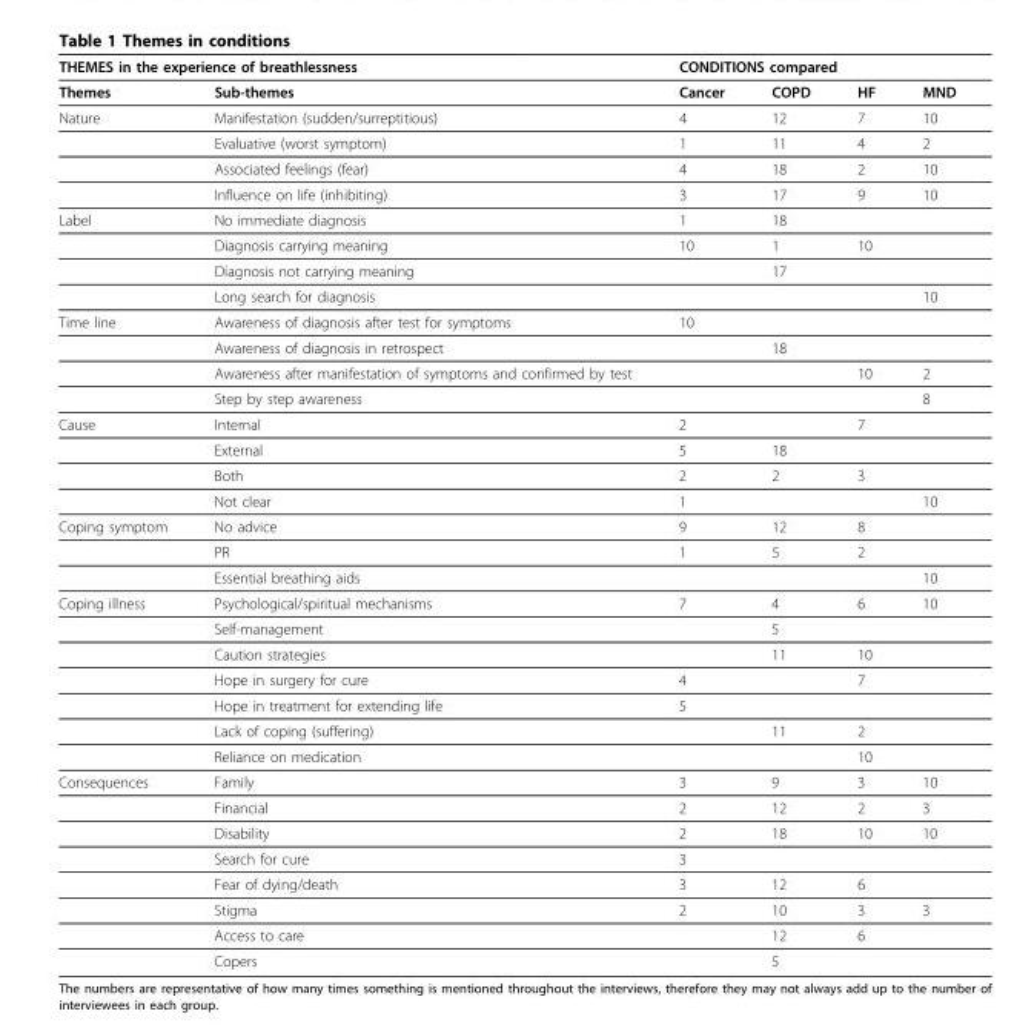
<table><thead><tr><td colspan="2">THEMES in the experience of breathlessness</td><td colspan="4">CONDITIONS compared</td></tr><tr><td>Themes</td><td>Sub-themes</td><td>Cancer</td><td>COPD</td><td>HF</td><td>MND</td></tr></thead><tbody><tr><td rowspan="4">Nature</td><td>Manifestation (sudden/surreptitious)</td><td>4</td><td>12</td><td>7</td><td>10</td></tr><tr><td>Evaluative (worst symptom)</td><td>1</td><td>11</td><td>4</td><td>2</td></tr><tr><td>Associated feelings (fear)</td><td>4</td><td>18</td><td>2</td><td>10</td></tr><tr><td>Influence on life (inhibiting)</td><td>3</td><td>17</td><td>9</td><td>10</td></tr><tr><td rowspan="4">Label</td><td>No immediate diagnosis</td><td>1</td><td>18</td><td></td><td></td></tr><tr><td>Diagnosis carrying meaning</td><td>10</td><td>1</td><td>10</td><td></td></tr><tr><td>Diagnosis not carrying meaning</td><td></td><td>17</td><td></td><td></td></tr><tr><td>Long search for diagnosis</td><td></td><td></td><td></td><td>10</td></tr><tr><td rowspan="4">Time line</td><td>Awareness of diagnosis after test for symptoms</td><td>10</td><td></td><td></td><td></td></tr><tr><td>Awareness of diagnosis in retrospect</td><td></td><td>18</td><td></td><td></td></tr><tr><td>Awareness after manifestation of symptoms and confirmed by test</td><td></td><td></td><td>10</td><td>2</td></tr><tr><td>Step by step awareness</td><td></td><td></td><td></td><td>8</td></tr><tr><td rowspan="4">Cause</td><td>Internal</td><td>2</td><td></td><td>7</td><td></td></tr><tr><td>External</td><td>5</td><td>18</td><td></td><td></td></tr><tr><td>Both</td><td>2</td><td>2</td><td>3</td><td></td></tr><tr><td>Not clear</td><td>1</td><td></td><td></td><td>10</td></tr><tr><td rowspan="3">Coping symptom</td><td>No advice</td><td>9</td><td>12</td><td>8</td><td></td></tr><tr><td>PR</td><td>1</td><td>5</td><td>2</td><td></td></tr><tr><td>Essential breathing aids</td><td></td><td></td><td></td><td>10</td></tr><tr><td rowspan="7">Coping illness</td><td>Psychological/spiritual mechanisms</td><td>7</td><td>4</td><td>6</td><td>10</td></tr><tr><td>Self-management</td><td></td><td>5</td><td></td><td></td></tr><tr><td>Caution strategies</td><td></td><td>11</td><td>10</td><td></td></tr><tr><td>Hope in surgery for cure</td><td>4</td><td></td><td>7</td><td></td></tr><tr><td>Hope in treatment for extending life</td><td>5</td><td></td><td></td><td></td></tr><tr><td>Lack of coping (suffering)</td><td></td><td>11</td><td>2</td><td></td></tr><tr><td>Reliance on medication</td><td></td><td></td><td>10</td><td></td></tr><tr><td rowspan="8">Consequences</td><td>Family</td><td>3</td><td>9</td><td>3</td><td>10</td></tr><tr><td>Financial</td><td>2</td><td>12</td><td>2</td><td>3</td></tr><tr><td>Disability</td><td>2</td><td>18</td><td>10</td><td>10</td></tr><tr><td>Search for cure</td><td>3</td><td></td><td></td><td></td></tr><tr><td>Fear of dying/death</td><td>3</td><td>12</td><td>6</td><td></td></tr><tr><td>Stigma</td><td>2</td><td>10</td><td>3</td><td>3</td></tr><tr><td>Access to care</td><td></td><td>12</td><td>6</td><td></td></tr><tr><td>Copers</td><td></td><td>5</td><td></td><td></td></tr></tbody></table>